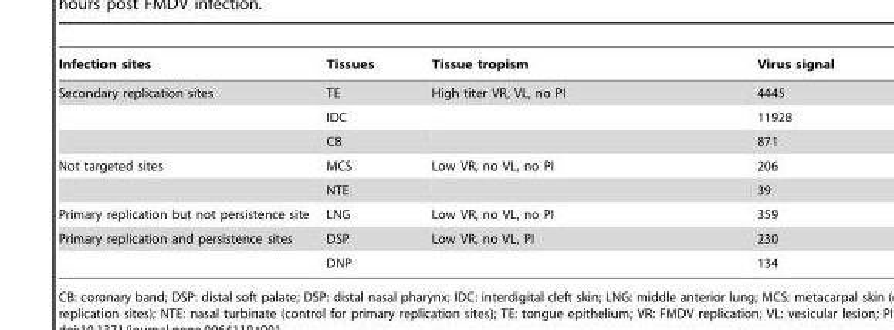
<table><thead><tr><td>Infection sites</td><td>Tissues</td><td>Tissue tropism</td><td>Virus signal</td></tr></thead><tbody><tr><td rowspan="3">Secondary replication sites</td><td>TE</td><td>High titer VR, VL, no PI</td><td>4445</td></tr><tr><td>IDC</td><td></td><td>11928</td></tr><tr><td>CB</td><td></td><td>871</td></tr><tr><td rowspan="2">Not targeted sites</td><td>MCS</td><td>Low VR, no VL, no PI</td><td>206</td></tr><tr><td>NTE</td><td></td><td>39</td></tr><tr><td>Primary replication but not persistence site</td><td>LNG</td><td>Low VR, no VL, no PI</td><td>359</td></tr><tr><td rowspan="2">Primary replication and persistence sites</td><td>DSP</td><td>Low VR, no VL, PI</td><td>230</td></tr><tr><td>DNP</td><td></td><td>134</td></tr></tbody></table>